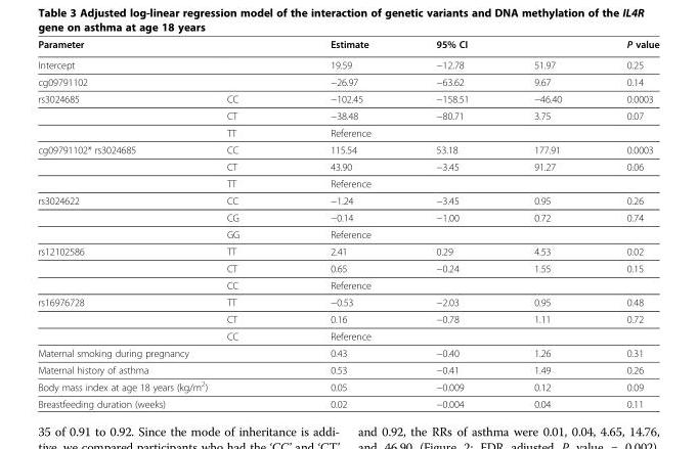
<table><thead><tr><td rowspan="2">Parameter Intercept</td><td rowspan="2"></td><td rowspan="2">Estimate 19.59</td><td colspan="2">95% CI</td><td rowspan="2">P value 0.25</td></tr><tr><td>−12.78</td><td>51.97</td></tr></thead><tbody><tr><td>cg09791102</td><td></td><td>−26.97</td><td>−63.62</td><td>9.67</td><td>0.14</td></tr><tr><td rowspan="3">rs3024685</td><td>CC</td><td>−102.45</td><td>−158.51</td><td>−46.40</td><td>0.0003</td></tr><tr><td>CT</td><td>−38.48</td><td>−80.71</td><td>3.75</td><td>0.07</td></tr><tr><td>TT</td><td>Reference</td><td></td><td></td><td></td></tr><tr><td rowspan="3">cg09791102* rs3024685</td><td>CC</td><td>115.54</td><td>53.18</td><td>177.91</td><td>0.0003</td></tr><tr><td>CT</td><td>43.90</td><td>−3.45</td><td>91.27</td><td>0.06</td></tr><tr><td>TT</td><td>Reference</td><td></td><td></td><td></td></tr><tr><td rowspan="3">rs3024622</td><td>CC</td><td>−1.24</td><td>−3.45</td><td>0.95</td><td>0.26</td></tr><tr><td>CG</td><td>−0.14</td><td>−1.00</td><td>0.72</td><td>0.74</td></tr><tr><td>GG</td><td>Reference</td><td></td><td></td><td></td></tr><tr><td rowspan="3">rs12102586</td><td>TT</td><td>2.41</td><td>0.29</td><td>4.53</td><td>0.02</td></tr><tr><td>CT</td><td>0.65</td><td>−0.24</td><td>1.55</td><td>0.15</td></tr><tr><td>CC</td><td>Reference</td><td></td><td></td><td></td></tr><tr><td rowspan="3">rs16976728</td><td>TT</td><td>−0.53</td><td>−2.03</td><td>0.95</td><td>0.48</td></tr><tr><td>CT</td><td>0.16</td><td>−0.78</td><td>1.11</td><td>0.72</td></tr><tr><td>CC</td><td>Reference</td><td></td><td></td><td></td></tr><tr><td colspan="2">Maternal smoking during pregnancy</td><td>0.43</td><td>−0.40</td><td>1.26</td><td>0.31</td></tr><tr><td colspan="2">Maternal history of asthma</td><td>0.53</td><td>−0.41</td><td>1.49</td><td>0.26</td></tr><tr><td colspan="2">Body mass index at age 18 years (kg/m<sup>2</sup>)</td><td>0.05</td><td>−0.009</td><td>0.12</td><td>0.09</td></tr><tr><td colspan="2">Breastfeeding duration (weeks)</td><td>0.02</td><td>−0.004</td><td>0.04</td><td>0.11</td></tr></tbody></table>